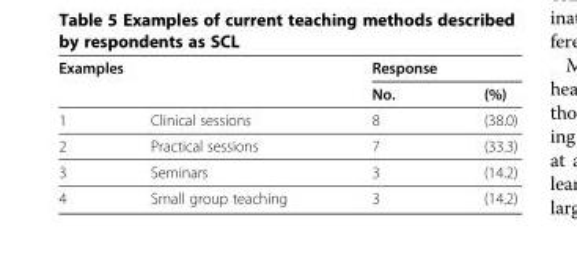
<table><thead><tr><td rowspan="2">Examples</td><td rowspan="2"></td><td colspan="2">Response</td></tr><tr><td>No.</td><td>(%)</td></tr></thead><tbody><tr><td>1</td><td>Clinical sessions</td><td>8</td><td>(38.0)</td></tr><tr><td>2</td><td>Practical sessions</td><td>7</td><td>(33.3)</td></tr><tr><td>3</td><td>Seminars</td><td>3</td><td>(14.2)</td></tr><tr><td>4</td><td>Small group teaching</td><td>3</td><td>(14.2)</td></tr></tbody></table>